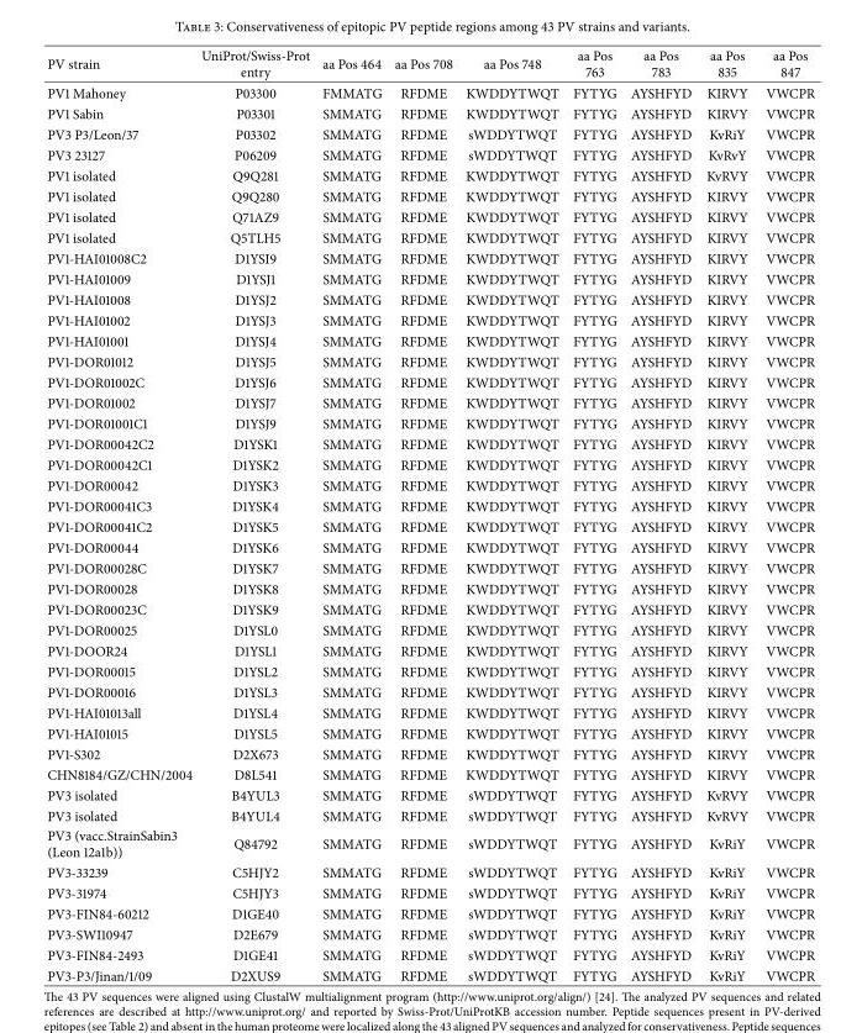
<table><thead><tr><td>PV strain</td><td>UniProt/Swiss-Prot entry</td><td>aa Pos 464</td><td>aa Pos 708</td><td>aa Pos 748</td><td>aa Pos 763</td><td>aa Pos 783</td><td>aa Pos 835</td><td>aa Pos 847</td></tr></thead><tbody><tr><td>PV1 Mahoney</td><td>P03300</td><td>FMMATG</td><td>RFDME</td><td>KWDDYTWQT</td><td>FYTYG</td><td>AYSHFYD</td><td>KIRVY</td><td>VWCPR</td></tr><tr><td>PV1 Sabin</td><td>P03301</td><td>SMMATG</td><td>RFDME</td><td>KWDDYTWQT</td><td>FYTYG</td><td>AYSHFYD</td><td>KIRVY</td><td>VWCPR</td></tr><tr><td>PV3 P3/Leon/37</td><td>P03302</td><td>SMMATG</td><td>RFDME</td><td>sWDDYTWQT</td><td>FYTYG</td><td>AYSHFYD</td><td>KvRiY</td><td>VWCPR</td></tr><tr><td>PV3 23127</td><td>P06209</td><td>SMMATG</td><td>RFDME</td><td>sWDDYTWQT</td><td>FYTYG</td><td>AYSHFYD</td><td>KvRvY</td><td>VWCPR</td></tr><tr><td>PV1 isolated</td><td>Q9Q281</td><td>SMMATG</td><td>RFDME</td><td>KWDDYTWQT</td><td>FYTYG</td><td>AYSHFYD</td><td>KvRVY</td><td>VWCPR</td></tr><tr><td>PV1 isolated</td><td>Q9Q280</td><td>SMMATG</td><td>RFDME</td><td>KWDDYTWQT</td><td>FYTYG</td><td>AYSHFYD</td><td>KIRVY</td><td>VWCPR</td></tr><tr><td>PV1 isolated</td><td>Q71AZ9</td><td>SMMATG</td><td>RFDME</td><td>KWDDYTWQT</td><td>FYTYG</td><td>AYSHFYD</td><td>KIRVY</td><td>VWCPR</td></tr><tr><td>PV1 isolated</td><td>Q5TLH5</td><td>SMMATG</td><td>RFDME</td><td>KWDDYTWQT</td><td>FYTYG</td><td>AYSHFYD</td><td>KIRVY</td><td>VWCPR</td></tr><tr><td>PV1-HAI01008C2</td><td>D1YSI9</td><td>SMMATG</td><td>RFDME</td><td>KWDDYTWQT</td><td>FYTYG</td><td>AYSHFYD</td><td>KIRVY</td><td>VWCPR</td></tr><tr><td>PV1-HAI01009</td><td>D1YSJ1</td><td>SMMATG</td><td>RFDME</td><td>KWDDYTWQT</td><td>FYTYG</td><td>AYSHFYD</td><td>KIRVY</td><td>VWCPR</td></tr><tr><td>PV1-HAI01008</td><td>D1YSJ2</td><td>SMMATG</td><td>RFDME</td><td>KWDDYTWQT</td><td>FYTYG</td><td>AYSHFYD</td><td>KIRVY</td><td>VWCPR</td></tr><tr><td>PV1-HAI01002</td><td>D1YSJ3</td><td>SMMATG</td><td>RFDME</td><td>KWDDYTWQT</td><td>FYTYG</td><td>AYSHFYD</td><td>KIRVY</td><td>VWCPR</td></tr><tr><td>PV1-HAI01001</td><td>D1YSJ4</td><td>SMMATG</td><td>RFDME</td><td>KWDDYTWQT</td><td>FYTYG</td><td>AYSHFYD</td><td>KIRVY</td><td>VWCPR</td></tr><tr><td>PV1-DOR01012</td><td>D1YSJ5</td><td>SMMATG</td><td>RFDME</td><td>KWDDYTWQT</td><td>FYTYG</td><td>AYSHFYD</td><td>KIRVY</td><td>VWCPR</td></tr><tr><td>PV1-DOR01002C</td><td>D1YSJ6</td><td>SMMATG</td><td>RFDME</td><td>KWDDYTWQT</td><td>FYTYG</td><td>AYSHFYD</td><td>KIRVY</td><td>VWCPR</td></tr><tr><td>PV1-DOR01002</td><td>D1YSJ7</td><td>SMMATG</td><td>RFDME</td><td>KWDDYTWQT</td><td>FYTYG</td><td>AYSHFYD</td><td>KIRVY</td><td>VWCPR</td></tr><tr><td>PV1-DOR01001C1</td><td>D1YSJ9</td><td>SMMATG</td><td>RFDME</td><td>KWDDYTWQT</td><td>FYTYG</td><td>AYSHFYD</td><td>KIRVY</td><td>VWCPR</td></tr><tr><td>PV1-DOR00042C2</td><td>D1YSK1</td><td>SMMATG</td><td>RFDME</td><td>KWDDYTWQT</td><td>FYTYG</td><td>AYSHFYD</td><td>KIRVY</td><td>VWCPR</td></tr><tr><td>PV1-DOR00042C1</td><td>D1YSK2</td><td>SMMATG</td><td>RFDME</td><td>KWDDYTWQT</td><td>FYTYG</td><td>AYSHFYD</td><td>KIRVY</td><td>VWCPR</td></tr><tr><td>PV1-DOR00042</td><td>D1YSK3</td><td>SMMATG</td><td>RFDME</td><td>KWDDYTWQT</td><td>FYTYG</td><td>AYSHFYD</td><td>KIRVY</td><td>VWCPR</td></tr><tr><td>PV1-DOR00041C3</td><td>D1YSK4</td><td>SMMATG</td><td>RFDME</td><td>KWDDYTWQT</td><td>FYTYG</td><td>AYSHFYD</td><td>KIRVY</td><td>VWCPR</td></tr><tr><td>PV1-DOR00041C2</td><td>D1YSK5</td><td>SMMATG</td><td>RFDME</td><td>KWDDYTWQT</td><td>FYTYG</td><td>AYSHFYD</td><td>KIRVY</td><td>VWCPR</td></tr><tr><td>PV1-DOR00044</td><td>D1YSK6</td><td>SMMATG</td><td>RFDME</td><td>KWDDYTWQT</td><td>FYTYG</td><td>AYSHFYD</td><td>KIRVY</td><td>VWCPR</td></tr><tr><td>PV1-DOR00028C</td><td>D1YSK7</td><td>SMMATG</td><td>RFDME</td><td>KWDDYTWQT</td><td>FYTYG</td><td>AYSHFYD</td><td>KIRVY</td><td>VWCPR</td></tr><tr><td>PV1-DOR00028</td><td>D1YSK8</td><td>SMMATG</td><td>RFDME</td><td>KWDDYTWQT</td><td>FYTYG</td><td>AYSHFYD</td><td>KIRVY</td><td>VWCPR</td></tr><tr><td>PV1-DOR00023C</td><td>D1YSK9</td><td>SMMATG</td><td>RFDME</td><td>KWDDYTWQT</td><td>FYTYG</td><td>AYSHFYD</td><td>KIRVY</td><td>VWCPR</td></tr><tr><td>PV1-DOR00025</td><td>D1YSL0</td><td>SMMATG</td><td>RFDME</td><td>KWDDYTWQT</td><td>FYTYG</td><td>AYSHFYD</td><td>KIRVY</td><td>VWCPR</td></tr><tr><td>PV1-DOOR24</td><td>D1YSL1</td><td>SMMATG</td><td>RFDME</td><td>KWDDYTWQT</td><td>FYTYG</td><td>AYSHFYD</td><td>KIRVY</td><td>VWCPR</td></tr><tr><td>PV1-DOR00015</td><td>D1YSL2</td><td>SMMATG</td><td>RFDME</td><td>KWDDYTWQT</td><td>FYTYG</td><td>AYSHFYD</td><td>KIRVY</td><td>VWCPR</td></tr><tr><td>PV1-DOR00016</td><td>D1YSL3</td><td>SMMATG</td><td>RFDME</td><td>KWDDYTWQT</td><td>FYTYG</td><td>AYSHFYD</td><td>KIRVY</td><td>VWCPR</td></tr><tr><td>PV1-HAI01013all</td><td>D1YSL4</td><td>SMMATG</td><td>RFDME</td><td>KWDDYTWQT</td><td>FYTYG</td><td>AYSHFYD</td><td>KIRVY</td><td>VWCPR</td></tr><tr><td>PV1-HAI01015</td><td>D1YSL5</td><td>SMMATG</td><td>RFDME</td><td>KWDDYTWQT</td><td>FYTYG</td><td>AYSHFYD</td><td>KIRVY</td><td>VWCPR</td></tr><tr><td>PV1-S302</td><td>D2X673</td><td>SMMATG</td><td>RFDME</td><td>KWDDYTWQT</td><td>FYTYG</td><td>AYSHFYD</td><td>KIRVY</td><td>VWCPR</td></tr><tr><td>CHN8184/GZ/CHN/2004</td><td>D8L541</td><td>SMMATG</td><td>RFDME</td><td>KWDDYTWQT</td><td>FYTYG</td><td>AYSHFYD</td><td>KIRVY</td><td>VWCPR</td></tr><tr><td>PV3 isolated</td><td>B4YUL3</td><td>SMMATG</td><td>RFDME</td><td>sWDDYTWQT</td><td>FYTYG</td><td>AYSHFYD</td><td>KvRVY</td><td>VWCPR</td></tr><tr><td>PV3 isolated</td><td>B4YUL4</td><td>SMMATG</td><td>RFDME</td><td>sWDDYTWQT</td><td>FYTYG</td><td>AYSHFYD</td><td>KvRVY</td><td>VWCPR</td></tr><tr><td>PV3 (vacc.StrainSabin3 (Leon 12a1b))</td><td>Q84792</td><td>SMMATG</td><td>RFDME</td><td>sWDDYTWQT</td><td>FYTYG</td><td>AYSHFYD</td><td>KvRiY</td><td>VWCPR</td></tr><tr><td>PV3-33239</td><td>C5HJY2</td><td>SMMATG</td><td>RFDME</td><td>sWDDYTWQT</td><td>FYTYG</td><td>AYSHFYD</td><td>KvRiY</td><td>VWCPR</td></tr><tr><td>PV3-31974</td><td>C5HJY3</td><td>SMMATG</td><td>RFDME</td><td>sWDDYTWQT</td><td>FYTYG</td><td>AYSHFYD</td><td>KvRiY</td><td>VWCPR</td></tr><tr><td>PV3-FIN84-60212</td><td>D1GE40</td><td>SMMATG</td><td>RFDME</td><td>sWDDYTWQT</td><td>FYTYG</td><td>AYSHFYD</td><td>KvRiY</td><td>VWCPR</td></tr><tr><td>PV3-SWI10947</td><td>D2E679</td><td>SMMATG</td><td>RFDME</td><td>sWDDYTWQT</td><td>FYTYG</td><td>AYSHFYD</td><td>KvRiY</td><td>VWCPR</td></tr><tr><td>PV3-FIN84-2493</td><td>D1GE41</td><td>SMMATG</td><td>RFDME</td><td>sWDDYTWQT</td><td>FYTYG</td><td>AYSHFYD</td><td>KvRiY</td><td>VWCPR</td></tr><tr><td>PV3-P3/Jinan/1/09</td><td>D2XUS9</td><td>SMMATG</td><td>RFDME</td><td>sWDDYTWQT</td><td>FYTYG</td><td>AYSHFYD</td><td>KvRiY</td><td>VWCPR</td></tr></tbody></table>